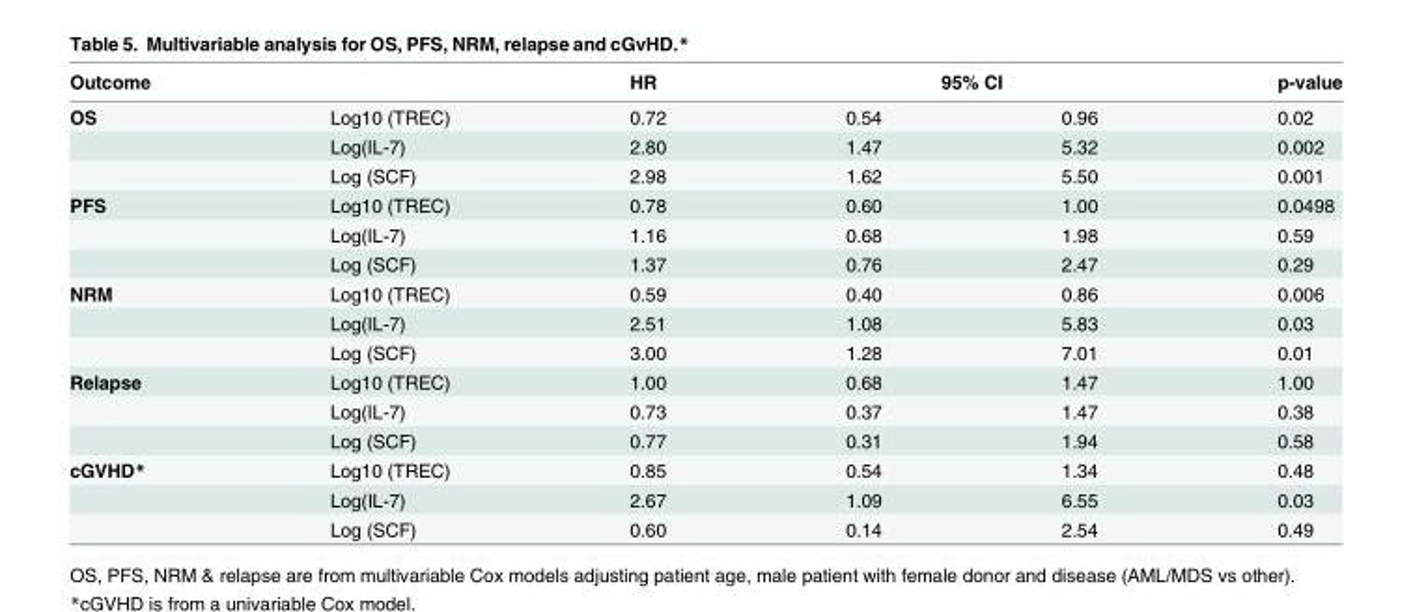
<table><thead><tr><td rowspan="2">Outcome OS</td><td rowspan="2">Log10 (TREC)</td><td rowspan="2">HR 0.72</td><td colspan="2">95% CI</td><td rowspan="2">p-value 0.02</td></tr><tr><td>0.54</td><td>0.96</td></tr></thead><tbody><tr><td></td><td>Log(IL-7)</td><td>2.80</td><td>1.47</td><td>5.32</td><td>0.002</td></tr><tr><td></td><td>Log (SCF)</td><td>2.98</td><td>1.62</td><td>5.50</td><td>0.001</td></tr><tr><td rowspan="3">PFS</td><td>Log10 (TREC)</td><td>0.78</td><td>0.60</td><td>1.00</td><td>0.0498</td></tr><tr><td>Log(IL-7)</td><td>1.16</td><td>0.68</td><td>1.98</td><td>0.59</td></tr><tr><td>Log (SCF)</td><td>1.37</td><td>0.76</td><td>2.47</td><td>0.29</td></tr><tr><td rowspan="3">NRM</td><td>Log10 (TREC)</td><td>0.59</td><td>0.40</td><td>0.86</td><td>0.006</td></tr><tr><td>Log(IL-7)</td><td>2.51</td><td>1.08</td><td>5.83</td><td>0.03</td></tr><tr><td>Log (SCF)</td><td>3.00</td><td>1.28</td><td>7.01</td><td>0.01</td></tr><tr><td rowspan="3">Relapse</td><td>Log10 (TREC)</td><td>1.00</td><td>0.68</td><td>1.47</td><td>1.00</td></tr><tr><td>Log(IL-7)</td><td>0.73</td><td>0.37</td><td>1.47</td><td>0.38</td></tr><tr><td>Log (SCF)</td><td>0.77</td><td>0.31</td><td>1.94</td><td>0.58</td></tr><tr><td rowspan="3">cGVHD*</td><td>Log10 (TREC)</td><td>0.85</td><td>0.54</td><td>1.34</td><td>0.48</td></tr><tr><td>Log(IL-7)</td><td>2.67</td><td>1.09</td><td>6.55</td><td>0.03</td></tr><tr><td>Log (SCF)</td><td>0.60</td><td>0.14</td><td>2.54</td><td>0.49</td></tr></tbody></table>